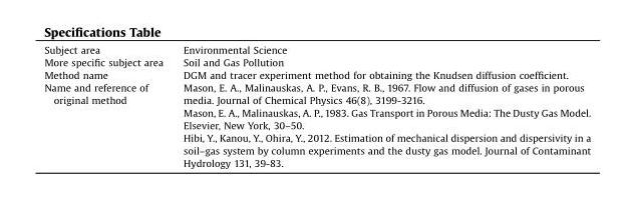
<table><tbody><tr><td>Subject area</td><td>Environmental Science</td></tr><tr><td>More specific subject area</td><td>Soil and Gas Pollution</td></tr><tr><td>Method name</td><td>DGM and tracer experiment method for obtaining the Knudsen diffusion coefficient.</td></tr><tr><td rowspan="3">Name and reference of original method</td><td>Mason, E. A., Malinauskas, A. P., Evans, R. B., 1967. Flow and diffusion of gases in porous media. Journal of Chemical Physics 46(8), 3199-3216.</td></tr><tr><td>Mason, E. A., Malinauskas, A. P., 1983. Gas Transport in Porous Media: The Dusty Gas Model. Elsevier, New York, 30–50.</td></tr><tr><td>Hibi, Y., Kanou, Y., Ohira, Y., 2012. Estimation of mechanical dispersion and dispersivity in a soil–gas system by column experiments and the dusty gas model. Journal of Contaminant Hydrology 131, 39-83.</td></tr></tbody></table>